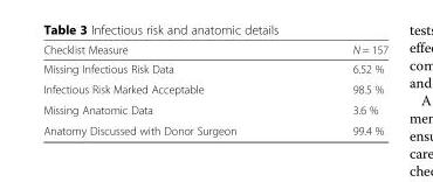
<table><thead><tr><td>Checklist Measure</td><td>N = 157</td></tr></thead><tbody><tr><td>Missing Infectious Risk Data</td><td>6.52 %</td></tr><tr><td>Infectious Risk Marked Acceptable</td><td>98.5 %</td></tr><tr><td>Missing Anatomic Data</td><td>3.6 %</td></tr><tr><td>Anatomy Discussed with Donor Surgeon</td><td>99.4 %</td></tr></tbody></table>